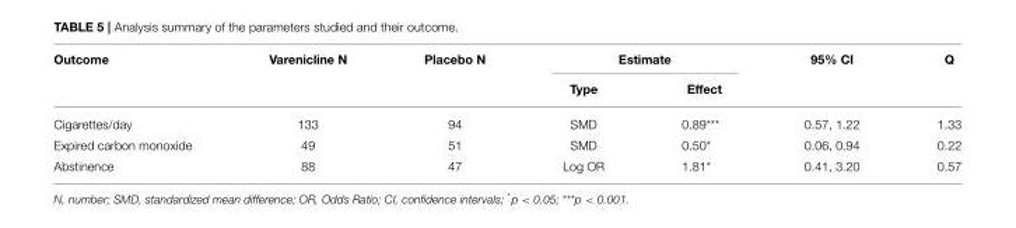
<table><thead><tr><td rowspan="2">Outcome</td><td rowspan="2">Varenicline N</td><td rowspan="2">Placebo N</td><td colspan="2">Estimate</td><td rowspan="2">95% CI</td><td rowspan="2">Q</td></tr><tr><td>Type</td><td>Effect</td></tr></thead><tbody><tr><td>Cigarettes/day</td><td>133</td><td>94</td><td>SMD</td><td>0.89***</td><td>0.57, 1.22</td><td>1.33</td></tr><tr><td>Expired carbon monoxide</td><td>49</td><td>51</td><td>SMD</td><td>0.50*</td><td>0.06, 0.94</td><td>0.22</td></tr><tr><td>Abstinence</td><td>88</td><td>47</td><td>Log OR</td><td>1.81*</td><td>0.41, 3.20</td><td>0.57</td></tr></tbody></table>